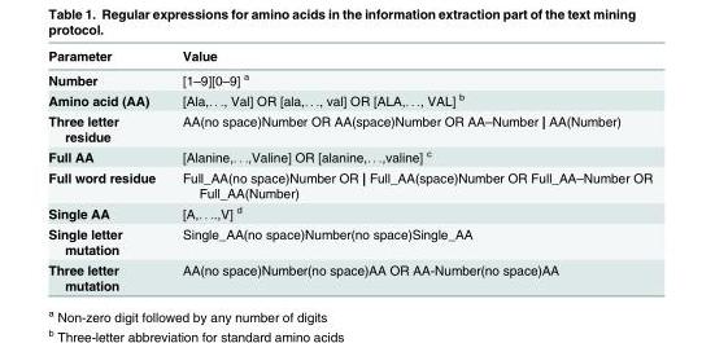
<table><thead><tr><td>Parameter</td><td>Value</td></tr></thead><tbody><tr><td>Number</td><td>[1–9][0–9] <sup>a</sup></td></tr><tr><td>Amino acid (AA)</td><td>[Ala,. . ., Val] OR [ala,. . ., val] OR [ALA,. . ., VAL] <sup>b</sup></td></tr><tr><td>Three letter residue</td><td>AA(no space)Number OR AA(space)Number OR AA–Number | AA(Number)</td></tr><tr><td>Full AA</td><td>[Alanine,. . .,Valine] OR [alanine,. . .,valine] <sup>c</sup></td></tr><tr><td>Full word residue</td><td>Full_AA(no space)Number OR | Full_AA(space)Number OR Full_AA–Number OR Full_AA(Number)</td></tr><tr><td>Single AA</td><td>[A,. . ..,V] <sup>d</sup></td></tr><tr><td>Single letter mutation</td><td>Single_AA(no space)Number(no space)Single_AA</td></tr><tr><td>Three letter mutation</td><td>AA(no space)Number(no space)AA OR AA-Number(no space)AA</td></tr></tbody></table>